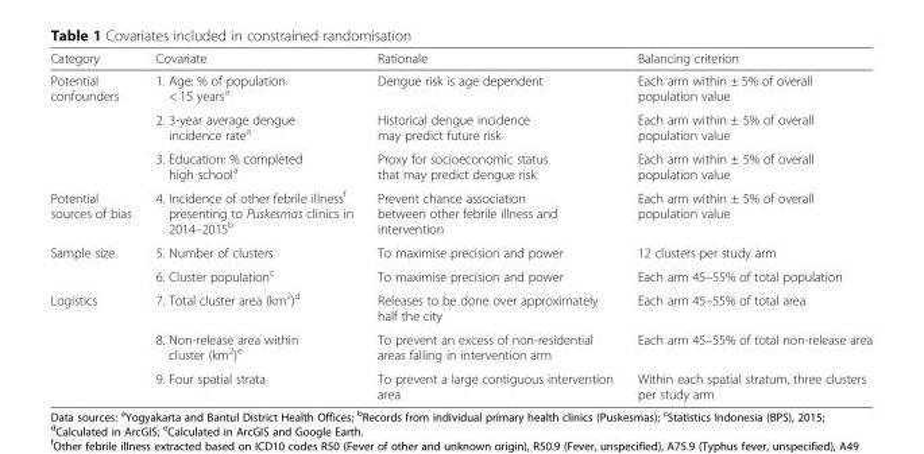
<table><thead><tr><td>Category</td><td>Covariate</td><td>Rationale</td><td>Balancing criterion</td></tr></thead><tbody><tr><td rowspan="3">Potential confounders</td><td>1. Age: % of population &lt; 15 years<sup>a</sup></td><td>Dengue risk is age dependent</td><td>Each arm within ± 5% of overall population value</td></tr><tr><td>2. 3-year average dengue incidence rate<sup>a</sup></td><td>Historical dengue incidence may predict future risk</td><td>Each arm within ± 5% of overall population value</td></tr><tr><td>3. Education: % completed high school<sup>a</sup></td><td>Proxy for socioeconomic status that may predict dengue risk</td><td>Each arm within ± 5% of overall population value</td></tr><tr><td>Potential sources of bias</td><td>4. Incidence of other febrile illness<sup>f</sup> presenting to Puskesmas clinics in 2014–2015<sup>b</sup></td><td>Prevent chance association between other febrile illness and intervention</td><td>Each arm within ± 5% of overall population value</td></tr><tr><td rowspan="2">Sample size</td><td>5. Number of clusters</td><td>To maximise precision and power</td><td>12 clusters per study arm</td></tr><tr><td>6. Cluster population<sup>c</sup></td><td>To maximise precision and power</td><td>Each arm 45–55% of total population</td></tr><tr><td rowspan="3">Logistics</td><td>7. Total cluster area (km<sup>2</sup>)<sup>d</sup></td><td>Releases to be done over approximately half the city</td><td>Each arm 45–55% of total area</td></tr><tr><td>8. Non-release area within cluster (km<sup>2</sup>)<sup>e</sup></td><td>To prevent an excess of non-residential areas falling in intervention arm</td><td>Each arm 45–55% of total non-release area</td></tr><tr><td>9. Four spatial strata</td><td>To prevent a large contiguous intervention area</td><td>Within each spatial stratum, three clusters per study arm</td></tr></tbody></table>